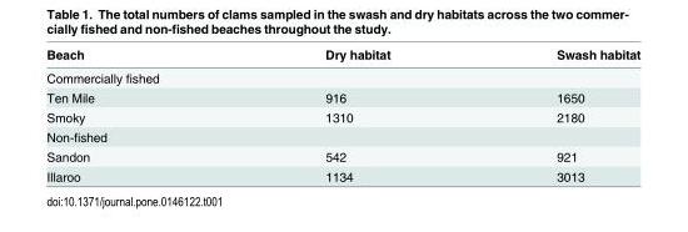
<table><thead><tr><td>Beach</td><td>Dry habitat</td><td>Swash habitat</td></tr></thead><tbody><tr><td colspan="3">Commercially fished</td></tr><tr><td>Ten Mile</td><td>916</td><td>1650</td></tr><tr><td>Smoky</td><td>1310</td><td>2180</td></tr><tr><td colspan="3">Non-fished</td></tr><tr><td>Sandon</td><td>542</td><td>921</td></tr><tr><td>Illaroo</td><td>1134</td><td>3013</td></tr></tbody></table>